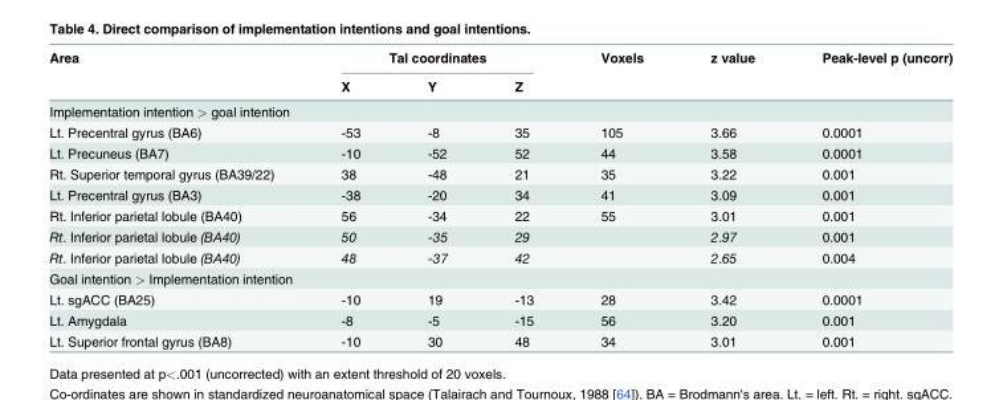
<table><thead><tr><td rowspan="2">Area</td><td colspan="3">Tal coordinates</td><td rowspan="2">Voxels</td><td rowspan="2">z value</td><td rowspan="2">Peak-level p (uncorr)</td></tr><tr><td>X</td><td>Y</td><td>Z</td></tr></thead><tbody><tr><td colspan="7">Implementation intention &gt; goal intention</td></tr><tr><td>Lt. Precentral gyrus (BA6)</td><td>-53</td><td>-8</td><td>35</td><td>105</td><td>3.66</td><td>0.0001</td></tr><tr><td>Lt. Precuneus (BA7)</td><td>-10</td><td>-52</td><td>52</td><td>44</td><td>3.58</td><td>0.0001</td></tr><tr><td>Rt. Superior temporal gyrus (BA39/22)</td><td>38</td><td>-48</td><td>21</td><td>35</td><td>3.22</td><td>0.001</td></tr><tr><td>Lt. Precentral gyrus (BA3)</td><td>-38</td><td>-20</td><td>34</td><td>41</td><td>3.09</td><td>0.001</td></tr><tr><td>Rt. Inferior parietal lobule (BA40)</td><td>56</td><td>-34</td><td>22</td><td>55</td><td>3.01</td><td>0.001</td></tr><tr><td>Rt. Inferior parietal lobule (BA40)</td><td>50</td><td>-35</td><td>29</td><td></td><td>2.97</td><td>0.001</td></tr><tr><td>Rt. Inferior parietal lobule (BA40)</td><td>48</td><td>-37</td><td>42</td><td></td><td>2.65</td><td>0.004</td></tr><tr><td colspan="7">Goal intention &gt; Implementation intention</td></tr><tr><td>Lt. sgACC (BA25)</td><td>-10</td><td>19</td><td>-13</td><td>28</td><td>3.42</td><td>0.0001</td></tr><tr><td>Lt. Amygdala</td><td>-8</td><td>-5</td><td>-15</td><td>56</td><td>3.20</td><td>0.001</td></tr><tr><td>Lt. Superior frontal gyrus (BA8)</td><td>-10</td><td>30</td><td>48</td><td>34</td><td>3.01</td><td>0.001</td></tr></tbody></table>